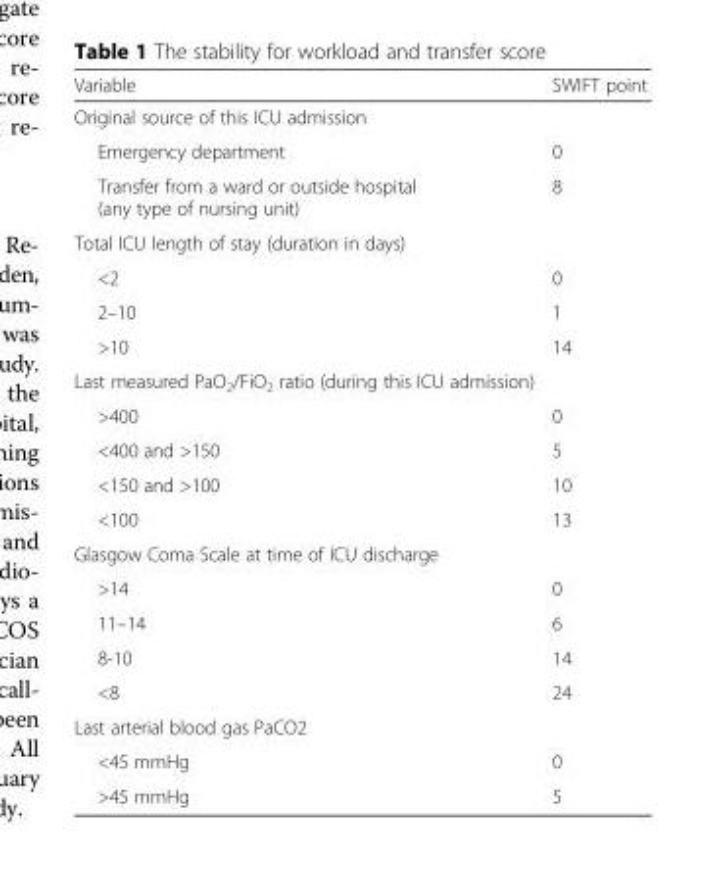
<table><thead><tr><td>Variable</td><td>SWIFT point</td></tr></thead><tbody><tr><td colspan="2">Original source of this ICU admission</td></tr><tr><td>Emergency department</td><td>0</td></tr><tr><td>Transfer from a ward or outside hospital (any type of nursing unit)</td><td>8</td></tr><tr><td colspan="2">Total ICU length of stay (duration in days)</td></tr><tr><td>&lt;2</td><td>0</td></tr><tr><td>2–10</td><td>1</td></tr><tr><td>&gt;10</td><td>14</td></tr><tr><td colspan="2">Last measured PaO<sub>2</sub>/FiO<sub>2</sub> ratio (during this ICU admission)</td></tr><tr><td>&gt;400</td><td>0</td></tr><tr><td>&lt;400 and &gt;150</td><td>5</td></tr><tr><td>&lt;150 and &gt;100</td><td>10</td></tr><tr><td>&lt;100</td><td>13</td></tr><tr><td colspan="2">Glasgow Coma Scale at time of ICU discharge</td></tr><tr><td>&gt;14</td><td>0</td></tr><tr><td>11–14</td><td>6</td></tr><tr><td>8-10</td><td>14</td></tr><tr><td>&lt;8</td><td>24</td></tr><tr><td colspan="2">Last arterial blood gas PaCO2</td></tr><tr><td>&lt;45 mmHg</td><td>0</td></tr><tr><td>&gt;45 mmHg</td><td>5</td></tr></tbody></table>